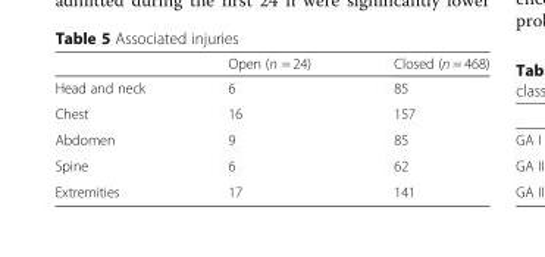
<table><thead><tr><td></td><td>Open (n = 24)</td><td>Closed (n = 468)</td></tr></thead><tbody><tr><td>Head and neck</td><td>6</td><td>85</td></tr><tr><td>Chest</td><td>16</td><td>157</td></tr><tr><td>Abdomen</td><td>9</td><td>85</td></tr><tr><td>Spine</td><td>6</td><td>62</td></tr><tr><td>Extremities</td><td>17</td><td>141</td></tr></tbody></table>